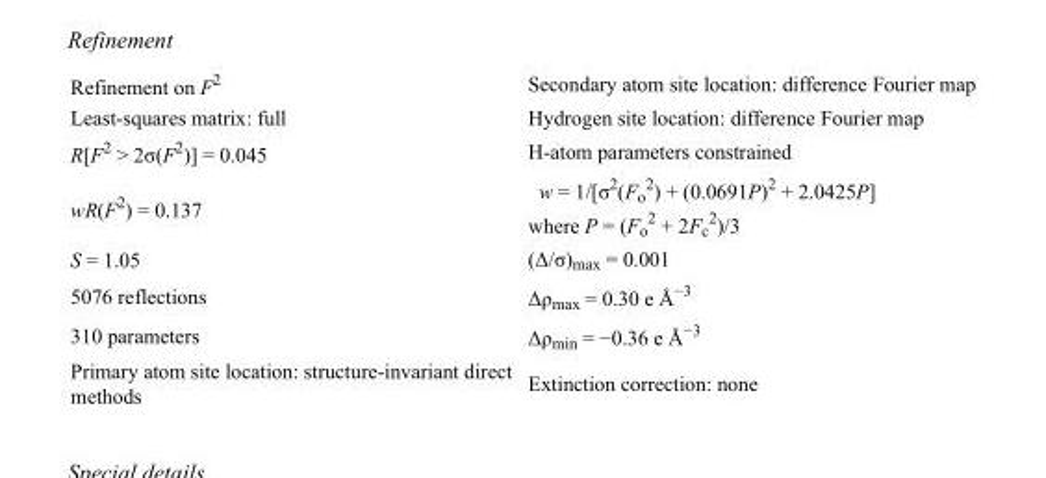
<table><tbody><tr><td>Refinement on F<sup>2</sup></td><td>Secondary atom site location: difference Fourier map</td></tr><tr><td>Least-squares matrix: full</td><td>Hydrogen site location: difference Fourier map</td></tr><tr><td>R[F<sup>2</sup> &gt; 2σ(F<sup>2</sup>)] = 0.045</td><td>H-atom parameters constrained</td></tr><tr><td>wR(F<sup>2</sup>) = 0.137</td><td>w = 1/[σ<sup>2</sup>(F<sub>o</sub> <sup>2</sup>) + (0.0691P)<sup>2</sup> + 2.0425P] where P = (F<sub>o</sub> <sup>2</sup> + 2F<sub>c</sub> <sup>2</sup>)/3</td></tr><tr><td>S = 1.05</td><td>(Δ/σ)<sub>max</sub> = 0.001</td></tr><tr><td>5076 reflections</td><td>Δρ<sub>max</sub> = 0.30 e Å<sup>−3</sup></td></tr><tr><td>310 parameters</td><td>Δρ<sub>min</sub> = −0.36 e Å<sup>−3</sup></td></tr><tr><td>Primary atom site location: structure-invariant direct methods</td><td>Extinction correction: none</td></tr></tbody></table>